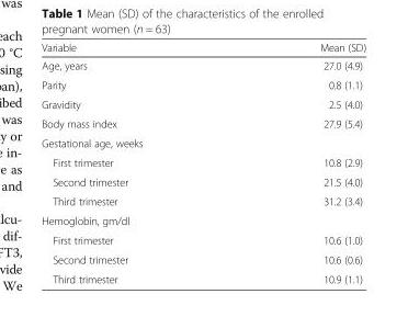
<table><thead><tr><td>Variable</td><td>Mean (SD)</td></tr></thead><tbody><tr><td>Age, years</td><td>27.0 (4.9)</td></tr><tr><td>Parity</td><td>0.8 (1.1)</td></tr><tr><td>Gravidity</td><td>2.5 (4.0)</td></tr><tr><td>Body mass index</td><td>27.9 (5.4)</td></tr><tr><td colspan="2">Gestational age, weeks</td></tr><tr><td>First trimester</td><td>10.8 (2.9)</td></tr><tr><td>Second trimester</td><td>21.5 (4.0)</td></tr><tr><td>Third trimester</td><td>31.2 (3.4)</td></tr><tr><td colspan="2">Hemoglobin, gm/dl</td></tr><tr><td>First trimester</td><td>10.6 (1.0)</td></tr><tr><td>Second trimester</td><td>10.6 (0.6)</td></tr><tr><td>Third trimester</td><td>10.9 (1.1)</td></tr></tbody></table>